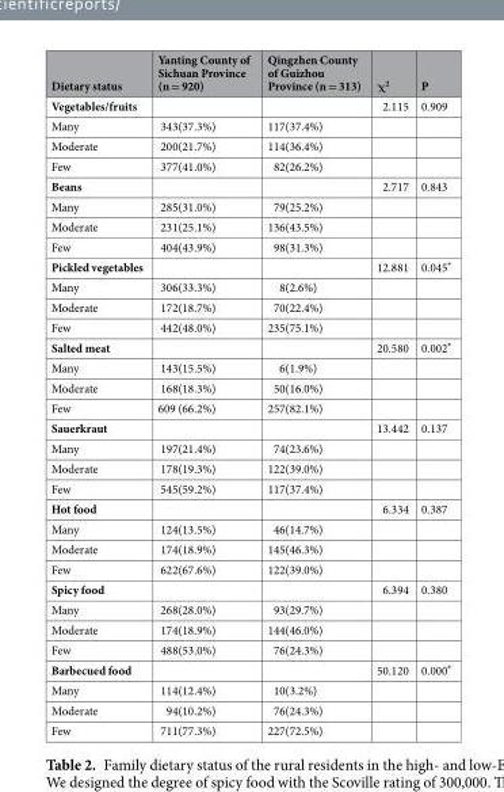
<table><thead><tr><td>Dietary status</td><td>Yanting County of Sichuan Province (n = 920)</td><td>Qingzhen County of Guizhou Province (n = 313)</td><td>χ<sup>2</sup></td><td>P</td></tr></thead><tbody><tr><td>Vegetables/fruits</td><td></td><td></td><td>2.115</td><td>0.909</td></tr><tr><td>Many</td><td>343(37.3%)</td><td>117(37.4%)</td><td></td><td></td></tr><tr><td>Moderate</td><td>200(21.7%)</td><td>114(36.4%)</td><td></td><td></td></tr><tr><td>Few</td><td>377(41.0%)</td><td>82(26.2%)</td><td></td><td></td></tr><tr><td>Beans</td><td></td><td></td><td>2.717</td><td>0.843</td></tr><tr><td>Many</td><td>285(31.0%)</td><td>79(25.2%)</td><td></td><td></td></tr><tr><td>Moderate</td><td>231(25.1%)</td><td>136(43.5%)</td><td></td><td></td></tr><tr><td>Few</td><td>404(43.9%)</td><td>98(31.3%)</td><td></td><td></td></tr><tr><td>Pickled vegetables</td><td></td><td></td><td>12.881</td><td>0.045*</td></tr><tr><td>Many</td><td>306(33.3%)</td><td>8(2.6%)</td><td></td><td></td></tr><tr><td>Moderate</td><td>172(18.7%)</td><td>70(22.4%)</td><td></td><td></td></tr><tr><td>Few</td><td>442(48.0%)</td><td>235(75.1%)</td><td></td><td></td></tr><tr><td>Salted meat</td><td></td><td></td><td>20.580</td><td>0.002*</td></tr><tr><td>Many</td><td>143(15.5%)</td><td>6(1.9%)</td><td></td><td></td></tr><tr><td>Moderate</td><td>168(18.3%)</td><td>50(16.0%)</td><td></td><td></td></tr><tr><td>Few</td><td>609 (66.2%)</td><td>257(82.1%)</td><td></td><td></td></tr><tr><td>Sauerkraut</td><td></td><td></td><td>13.442</td><td>0.137</td></tr><tr><td>Many</td><td>197(21.4%)</td><td>74(23.6%)</td><td></td><td></td></tr><tr><td>Moderate</td><td>178(19.3%)</td><td>122(39.0%)</td><td></td><td></td></tr><tr><td>Few</td><td>545(59.2%)</td><td>117(37.4%)</td><td></td><td></td></tr><tr><td>Hot food</td><td></td><td></td><td>6.334</td><td>0.387</td></tr><tr><td>Many</td><td>124(13.5%)</td><td>46(14.7%)</td><td></td><td></td></tr><tr><td>Moderate</td><td>174(18.9%)</td><td>145(46.3%)</td><td></td><td></td></tr><tr><td>Few</td><td>622(67.6%)</td><td>122(39.0%)</td><td></td><td></td></tr><tr><td>Spicy food</td><td></td><td></td><td>6.394</td><td>0.380</td></tr><tr><td>Many</td><td>268(28.0%)</td><td>93(29.7%)</td><td></td><td></td></tr><tr><td>Moderate</td><td>174(18.9%)</td><td>144(46.0%)</td><td></td><td></td></tr><tr><td>Few</td><td>488(53.0%)</td><td>76(24.3%)</td><td></td><td></td></tr><tr><td>Barbecued food</td><td></td><td></td><td>50.120</td><td>0.000*</td></tr><tr><td>Many</td><td>114(12.4%)</td><td>10(3.2%)</td><td></td><td></td></tr><tr><td>Moderate</td><td>94(10.2%)</td><td>76(24.3%)</td><td></td><td></td></tr><tr><td>Few</td><td>711(77.3%)</td><td>227(72.5%)</td><td></td><td></td></tr></tbody></table>